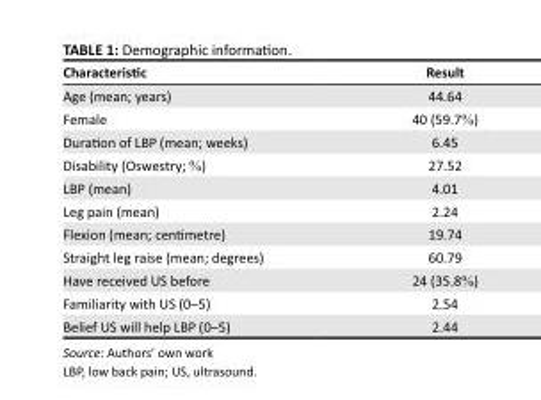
<table><thead><tr><td>Characteristic</td><td>Result</td></tr></thead><tbody><tr><td>Age (mean; years)</td><td>44.64</td></tr><tr><td>Female</td><td>40 (59.7%)</td></tr><tr><td>Duration of LBP (mean; weeks)</td><td>6.45</td></tr><tr><td>Disability (Oswestry; %)</td><td>27.52</td></tr><tr><td>LBP (mean)</td><td>4.01</td></tr><tr><td>Leg pain (mean)</td><td>2.24</td></tr><tr><td>Flexion (mean; centimetre)</td><td>19.74</td></tr><tr><td>Straight leg raise (mean; degrees)</td><td>60.79</td></tr><tr><td>Have received US before</td><td>24 (35.8%)</td></tr><tr><td>Familiarity with US (0–5)</td><td>2.54</td></tr><tr><td>Belief US will help LBP (0–5)</td><td>2.44</td></tr></tbody></table>